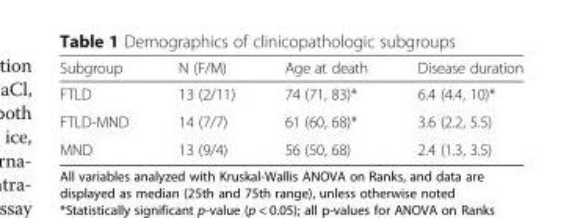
<table><thead><tr><td>Subgroup</td><td>N (F/M)</td><td>Age at death</td><td>Disease duration</td></tr></thead><tbody><tr><td>FTLD</td><td>13 (2/11)</td><td>74 (71, 83)*</td><td>6.4 (4.4, 10)*</td></tr><tr><td>FTLD-MND</td><td>14 (7/7)</td><td>61 (60, 68)*</td><td>3.6 (2.2, 5.5)</td></tr><tr><td>MND</td><td>13 (9/4)</td><td>56 (50, 68)</td><td>2.4 (1.3, 3.5)</td></tr></tbody></table>